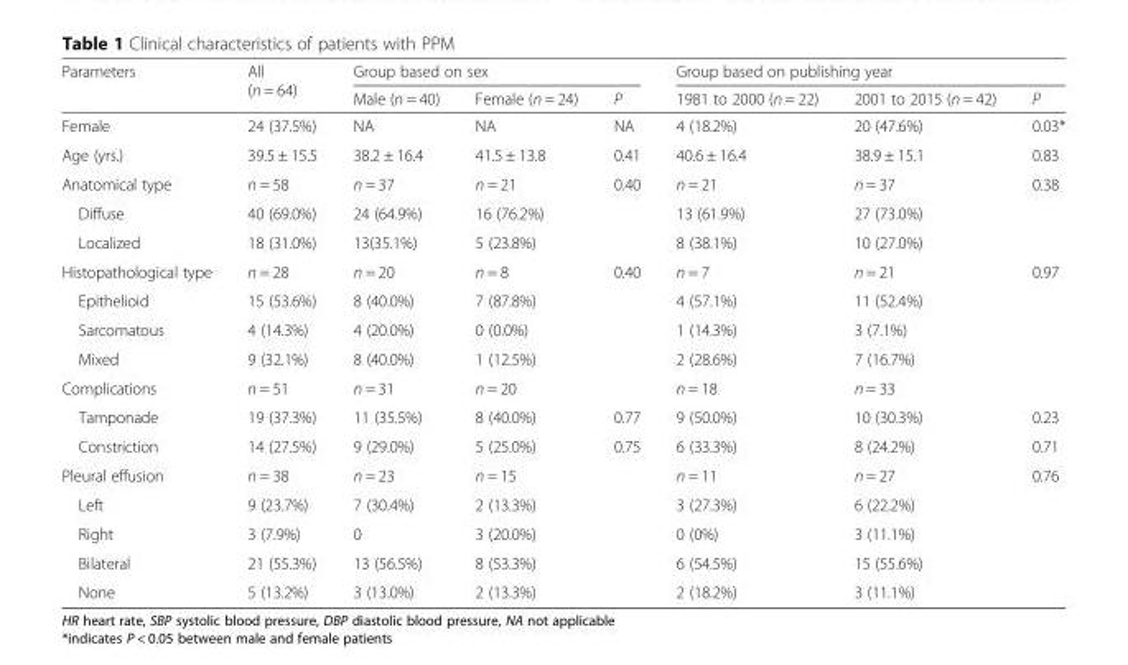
<table><thead><tr><td rowspan="2">Parameters</td><td rowspan="2">All (n = 64)</td><td colspan="3">Group based on sex</td><td colspan="3">Group based on publishing year</td></tr><tr><td>Male (n = 40)</td><td>Female (n = 24)</td><td>P</td><td>1981 to 2000 (n = 22)</td><td>2001 to 2015 (n = 42)</td><td>P</td></tr></thead><tbody><tr><td>Female</td><td>24 (37.5%)</td><td>NA</td><td>NA</td><td>NA</td><td>4 (18.2%)</td><td>20 (47.6%)</td><td>0.03*</td></tr><tr><td>Age (yrs.)</td><td>39.5 ± 15.5</td><td>38.2 ± 16.4</td><td>41.5 ± 13.8</td><td>0.41</td><td>40.6 ± 16.4</td><td>38.9 ± 15.1</td><td>0.83</td></tr><tr><td>Anatomical type</td><td>n = 58</td><td>n = 37</td><td>n = 21</td><td>0.40</td><td>n = 21</td><td>n = 37</td><td>0.38</td></tr><tr><td>Diffuse</td><td>40 (69.0%)</td><td>24 (64.9%)</td><td>16 (76.2%)</td><td></td><td>13 (61.9%)</td><td>27 (73.0%)</td><td></td></tr><tr><td>Localized</td><td>18 (31.0%)</td><td>13(35.1%)</td><td>5 (23.8%)</td><td></td><td>8 (38.1%)</td><td>10 (27.0%)</td><td></td></tr><tr><td>Histopathological type</td><td>n = 28</td><td>n = 20</td><td>n = 8</td><td>0.40</td><td>n = 7</td><td>n = 21</td><td>0.97</td></tr><tr><td>Epithelioid</td><td>15 (53.6%)</td><td>8 (40.0%)</td><td>7 (87.8%)</td><td></td><td>4 (57.1%)</td><td>11 (52.4%)</td><td></td></tr><tr><td>Sarcomatous</td><td>4 (14.3%)</td><td>4 (20.0%)</td><td>0 (0.0%)</td><td></td><td>1 (14.3%)</td><td>3 (7.1%)</td><td></td></tr><tr><td>Mixed</td><td>9 (32.1%)</td><td>8 (40.0%)</td><td>1 (12.5%)</td><td></td><td>2 (28.6%)</td><td>7 (16.7%)</td><td></td></tr><tr><td>Complications</td><td>n = 51</td><td>n = 31</td><td>n = 20</td><td></td><td>n = 18</td><td>n = 33</td><td></td></tr><tr><td>Tamponade</td><td>19 (37.3%)</td><td>11 (35.5%)</td><td>8 (40.0%)</td><td>0.77</td><td>9 (50.0%)</td><td>10 (30.3%)</td><td>0.23</td></tr><tr><td>Constriction</td><td>14 (27.5%)</td><td>9 (29.0%)</td><td>5 (25.0%)</td><td>0.75</td><td>6 (33.3%)</td><td>8 (24.2%)</td><td>0.71</td></tr><tr><td>Pleural effusion</td><td>n = 38</td><td>n = 23</td><td>n = 15</td><td></td><td>n = 11</td><td>n = 27</td><td>0.76</td></tr><tr><td>Left</td><td>9 (23.7%)</td><td>7 (30.4%)</td><td>2 (13.3%)</td><td></td><td>3 (27.3%)</td><td>6 (22.2%)</td><td></td></tr><tr><td>Right</td><td>3 (7.9%)</td><td>0</td><td>3 (20.0%)</td><td></td><td>0 (0%)</td><td>3 (11.1%)</td><td></td></tr><tr><td>Bilateral</td><td>21 (55.3%)</td><td>13 (56.5%)</td><td>8 (53.3%)</td><td></td><td>6 (54.5%)</td><td>15 (55.6%)</td><td></td></tr><tr><td>None</td><td>5 (13.2%)</td><td>3 (13.0%)</td><td>2 (13.3%)</td><td></td><td>2 (18.2%)</td><td>3 (11.1%)</td><td></td></tr></tbody></table>